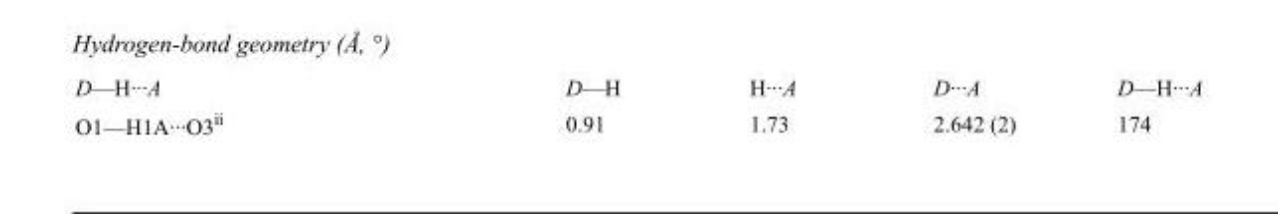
<table><tbody><tr><td>D—H···A</td><td>D—H</td><td>H···A</td><td>D···A</td><td>D—H···A</td></tr><tr><td>O1—H1A···O3<sup>ii</sup></td><td>0.91</td><td>1.73</td><td>2.642 (2)</td><td>174</td></tr></tbody></table>